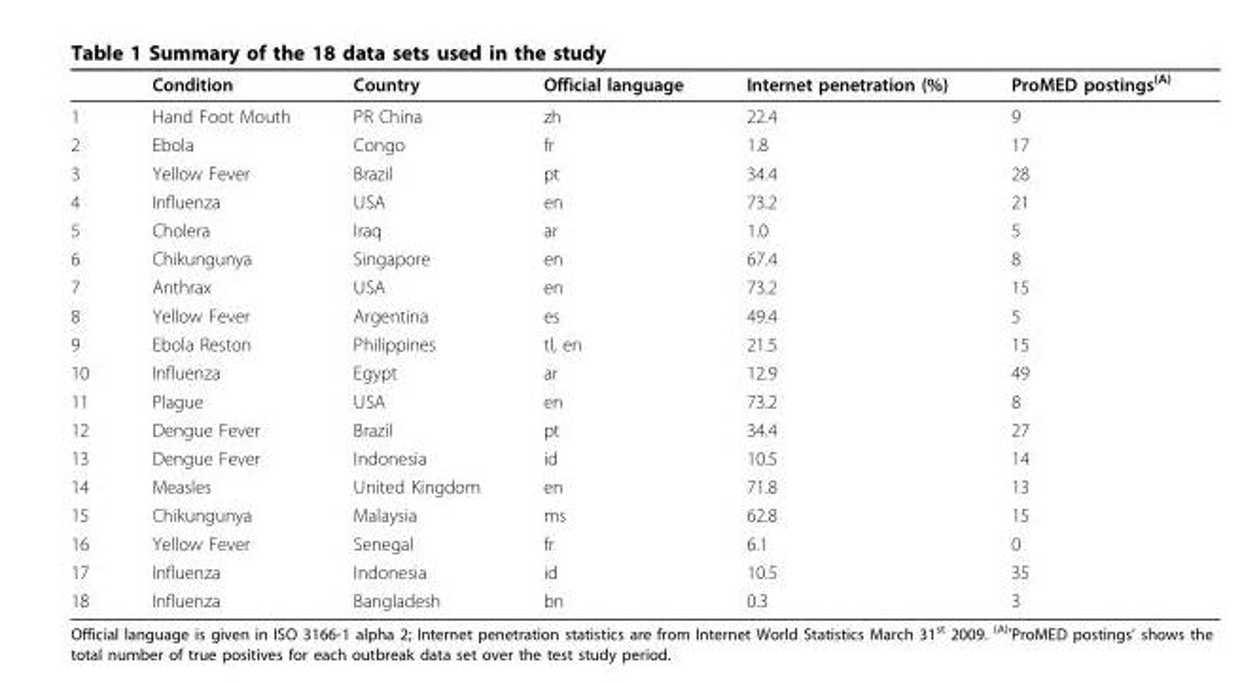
<table><thead><tr><td></td><td>Condition</td><td>Country</td><td>Official language</td><td>Internet penetration (%)</td><td>ProMED postings<sup>(A)</sup></td></tr></thead><tbody><tr><td>1</td><td>Hand Foot Mouth</td><td>PR China</td><td>zh</td><td>22.4</td><td>9</td></tr><tr><td>2</td><td>Ebola</td><td>Congo</td><td>fr</td><td>1.8</td><td>17</td></tr><tr><td>3</td><td>Yellow Fever</td><td>Brazil</td><td>pt</td><td>34.4</td><td>28</td></tr><tr><td>4</td><td>Influenza</td><td>USA</td><td>en</td><td>73.2</td><td>21</td></tr><tr><td>5</td><td>Cholera</td><td>Iraq</td><td>ar</td><td>1.0</td><td>5</td></tr><tr><td>6</td><td>Chikungunya</td><td>Singapore</td><td>en</td><td>67.4</td><td>8</td></tr><tr><td>7</td><td>Anthrax</td><td>USA</td><td>en</td><td>73.2</td><td>15</td></tr><tr><td>8</td><td>Yellow Fever</td><td>Argentina</td><td>es</td><td>49.4</td><td>5</td></tr><tr><td>9</td><td>Ebola Reston</td><td>Philippines</td><td>tl, en</td><td>21.5</td><td>15</td></tr><tr><td>10</td><td>Influenza</td><td>Egypt</td><td>ar</td><td>12.9</td><td>49</td></tr><tr><td>11</td><td>Plague</td><td>USA</td><td>en</td><td>73.2</td><td>8</td></tr><tr><td>12</td><td>Dengue Fever</td><td>Brazil</td><td>pt</td><td>34.4</td><td>27</td></tr><tr><td>13</td><td>Dengue Fever</td><td>Indonesia</td><td>id</td><td>10.5</td><td>14</td></tr><tr><td>14</td><td>Measles</td><td>United Kingdom</td><td>en</td><td>71.8</td><td>13</td></tr><tr><td>15</td><td>Chikungunya</td><td>Malaysia</td><td>ms</td><td>62.8</td><td>15</td></tr><tr><td>16</td><td>Yellow Fever</td><td>Senegal</td><td>fr</td><td>6.1</td><td>0</td></tr><tr><td>17</td><td>Influenza</td><td>Indonesia</td><td>id</td><td>10.5</td><td>35</td></tr><tr><td>18</td><td>Influenza</td><td>Bangladesh</td><td>bn</td><td>0.3</td><td>3</td></tr></tbody></table>